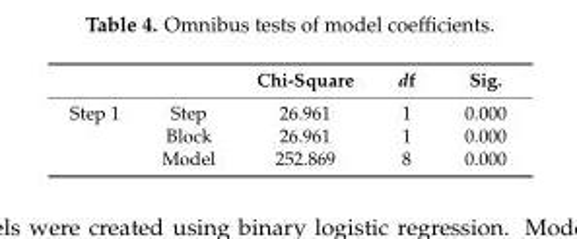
<table><thead><tr><td></td><td></td><td>Chi-Square</td><td>df</td><td>Sig.</td></tr></thead><tbody><tr><td rowspan="3">Step 1</td><td>Step</td><td>26.961</td><td>1</td><td>0.000</td></tr><tr><td>Block</td><td>26.961</td><td>1</td><td>0.000</td></tr><tr><td>Model</td><td>252.869</td><td>8</td><td>0.000</td></tr></tbody></table>